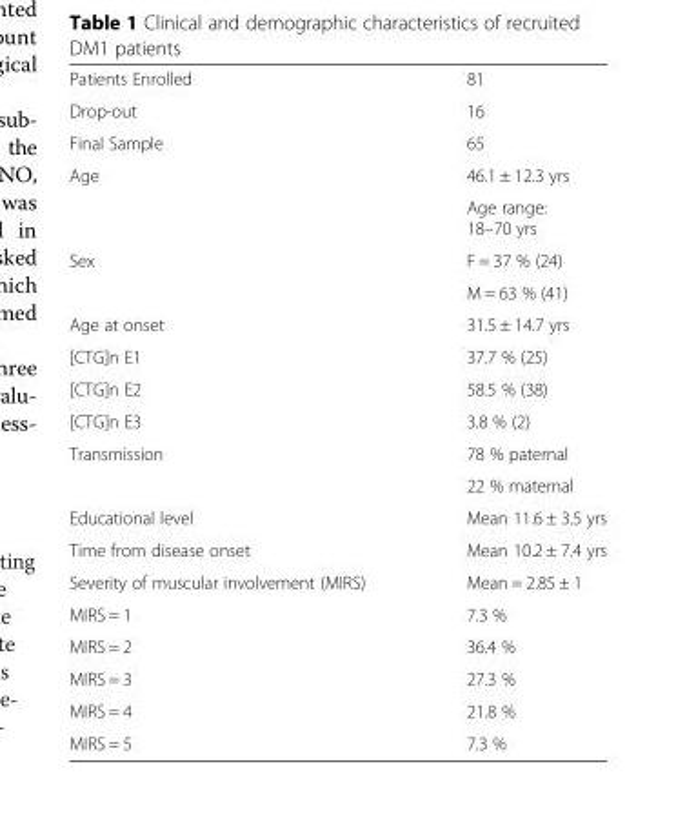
<table><tbody><tr><td>Patients Enrolled</td><td>81</td></tr><tr><td>Drop-out</td><td>16</td></tr><tr><td>Final Sample</td><td>65</td></tr><tr><td rowspan="2">Age</td><td>46.1 ± 12.3 yrs</td></tr><tr><td>Age range: 18–70 yrs</td></tr><tr><td rowspan="2">Sex</td><td>F = 37 % (24)</td></tr><tr><td>M = 63 % (41)</td></tr><tr><td>Age at onset</td><td>31.5 ± 14.7 yrs</td></tr><tr><td>[CTG]n E1</td><td>37.7 % (25)</td></tr><tr><td>[CTG]n E2</td><td>58.5 % (38)</td></tr><tr><td>[CTG]n E3</td><td>3.8 % (2)</td></tr><tr><td rowspan="2">Transmission</td><td>78 % paternal</td></tr><tr><td>22 % maternal</td></tr><tr><td>Educational level</td><td>Mean 11.6 ± 3.5 yrs</td></tr><tr><td>Time from disease onset</td><td>Mean 10.2 ± 7.4 yrs</td></tr><tr><td>Severity of muscular involvement (MIRS)</td><td>Mean = 2.85 ± 1</td></tr><tr><td>MIRS = 1</td><td>7.3 %</td></tr><tr><td>MIRS = 2</td><td>36.4 %</td></tr><tr><td>MIRS = 3</td><td>27.3 %</td></tr><tr><td>MIRS = 4</td><td>21.8 %</td></tr><tr><td>MIRS = 5</td><td>7.3 %</td></tr></tbody></table>